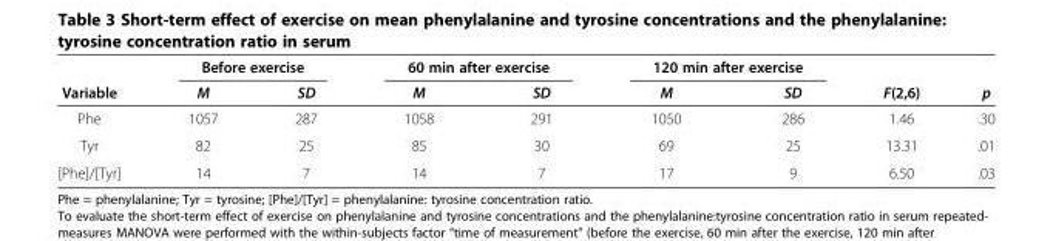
<table><thead><tr><td rowspan="2">Variable</td><td colspan="2">Before exercise</td><td colspan="2">60 min after exercise</td><td colspan="2">120 min after exercise</td><td rowspan="2">F(2,6)</td><td rowspan="2">p</td></tr><tr><td>M</td><td>SD</td><td>M</td><td>SD</td><td>M</td><td>SD</td></tr></thead><tbody><tr><td>Phe</td><td>1057</td><td>287</td><td>1058</td><td>291</td><td>1050</td><td>286</td><td>1.46</td><td>.30</td></tr><tr><td>Tyr</td><td>82</td><td>25</td><td>85</td><td>30</td><td>69</td><td>25</td><td>13.31</td><td>.01</td></tr><tr><td>[Phe]/[Tyr]</td><td>14</td><td>7</td><td>14</td><td>7</td><td>17</td><td>9</td><td>6.50</td><td>.03</td></tr></tbody></table>